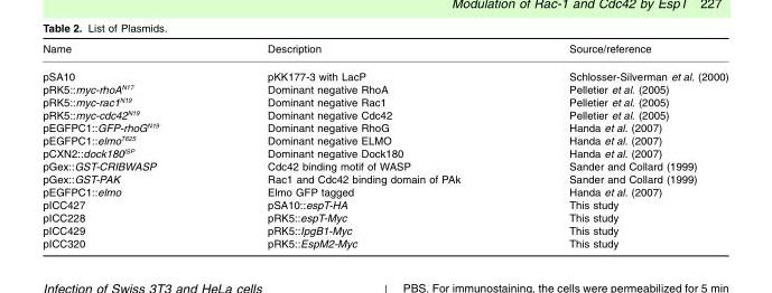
<table><thead><tr><td>Name</td><td>Description</td><td>Source/reference</td></tr></thead><tbody><tr><td>pSA10</td><td>pKK177-3 with LacP</td><td>Schlosser-Silverman et al. (2000)</td></tr><tr><td>pRK5::myc-rhoA<sup>N17</sup></td><td>Dominant negative RhoA</td><td>Pelletier et al. (2005)</td></tr><tr><td>pRK5::myc-rac1<sup>N19</sup></td><td>Dominant negative Rac1</td><td>Pelletier et al. (2005)</td></tr><tr><td>pRK5::myc-cdc42<sup>N19</sup></td><td>Dominant negative Cdc42</td><td>Pelletier et al. (2005)</td></tr><tr><td>pEGFPC1::GFP-rhoG<sup>N19</sup></td><td>Dominant negative RhoG</td><td>Handa et al. (2007)</td></tr><tr><td>pEGFPC1::elmo<sup>T625</sup></td><td>Dominant negative ELMO</td><td>Handa et al. (2007)</td></tr><tr><td>pCXN2::dock180<sup>ISP</sup></td><td>Dominant negative Dock180</td><td>Handa et al. (2007)</td></tr><tr><td>pGex::GST-CRIBWASP</td><td>Cdc42 binding motif of WASP</td><td>Sander and Collard (1999)</td></tr><tr><td>pGex::GST-PAK</td><td>Rac1 and Cdc42 binding domain of PAk</td><td>Sander and Collard (1999)</td></tr><tr><td>pEGFPC1::elmo</td><td>Elmo GFP tagged</td><td>Handa et al. (2007)</td></tr><tr><td>pICC427</td><td>pSA10::espT-HA</td><td>This study</td></tr><tr><td>pICC228</td><td>pRK5::espT-Myc</td><td>This study</td></tr><tr><td>pICC429</td><td>pRK5::IpgB1-Myc</td><td>This study</td></tr><tr><td>pICC320</td><td>pRK5::EspM2-Myc</td><td>This study</td></tr></tbody></table>